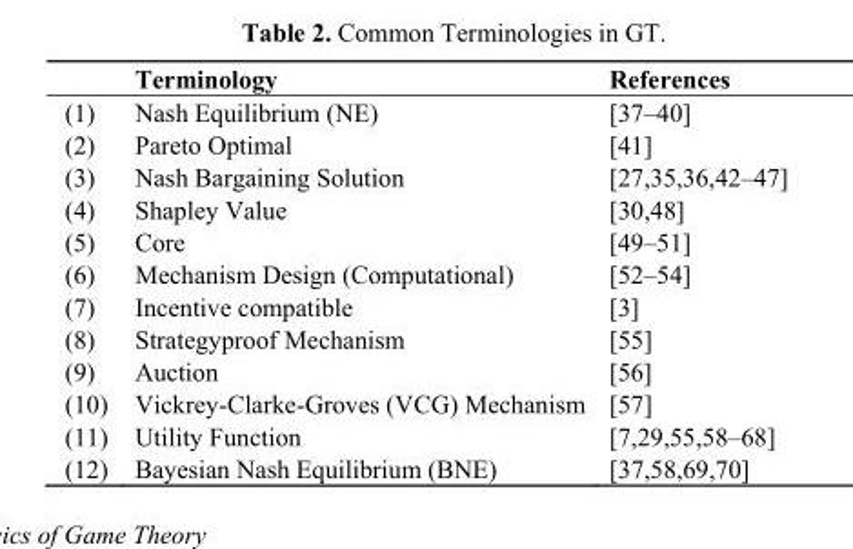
<table><thead><tr><td></td><td>Terminology</td><td>References</td></tr></thead><tbody><tr><td>(1)</td><td>Nash Equilibrium (NE)</td><td>[37–40]</td></tr><tr><td>(2)</td><td>Pareto Optimal</td><td>[41]</td></tr><tr><td>(3)</td><td>Nash Bargaining Solution</td><td>[27,35,36,42–47]</td></tr><tr><td>(4)</td><td>Shapley Value</td><td>[30,48]</td></tr><tr><td>(5)</td><td>Core</td><td>[49–51]</td></tr><tr><td>(6)</td><td>Mechanism Design (Computational)</td><td>[52–54]</td></tr><tr><td>(7)</td><td>Incentive compatible</td><td>[3]</td></tr><tr><td>(8)</td><td>Strategyproof Mechanism</td><td>[55]</td></tr><tr><td>(9)</td><td>Auction</td><td>[56]</td></tr><tr><td>(10)</td><td>Vickrey-Clarke-Groves (VCG) Mechanism</td><td>[57]</td></tr><tr><td>(11)</td><td>Utility Function</td><td>[7,29,55,58–68]</td></tr><tr><td>(12)</td><td>Bayesian Nash Equilibrium (BNE)</td><td>[37,58,69,70]</td></tr></tbody></table>